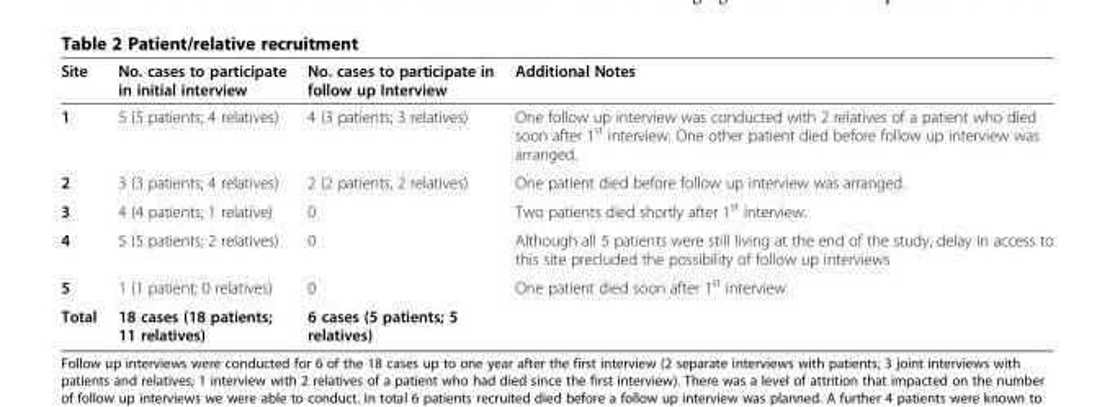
<table><thead><tr><td>Site</td><td>No. cases to participate in initial interview</td><td>No. cases to participate in follow up Interview</td><td>Additional Notes</td></tr></thead><tbody><tr><td>1</td><td>5 (5 patients; 4 relatives)</td><td>4 (3 patients; 3 relatives)</td><td>One follow up interview was conducted with 2 relatives of a patient who died soon after 1<sup>st</sup> interview. One other patient died before follow up interview was arranged.</td></tr><tr><td>2</td><td>3 (3 patients; 4 relatives)</td><td>2 (2 patients, 2 relatives)</td><td>One patient died before follow up interview was arranged.</td></tr><tr><td>3</td><td>4 (4 patients; 1 relative)</td><td>0</td><td>Two patients died shortly after 1<sup>st</sup> interview.</td></tr><tr><td>4</td><td>5 (5 patients; 2 relatives)</td><td>0</td><td>Although all 5 patients were still living at the end of the study, delay in access to this site precluded the possibility of follow up interviews</td></tr><tr><td>5</td><td>1 (1 patient; 0 relatives)</td><td>0</td><td>One patient died soon after 1<sup>st</sup> interview.</td></tr><tr><td>Total</td><td>18 cases (18 patients; 11 relatives)</td><td>6 cases (5 patients; 5 relatives)</td><td></td></tr></tbody></table>